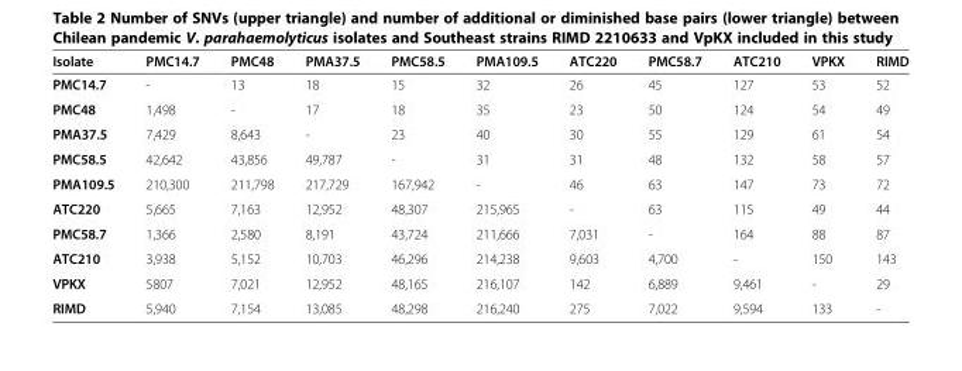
<table><thead><tr><td>Isolate</td><td>PMC14.7</td><td>PMC48</td><td>PMA37.5</td><td>PMC58.5</td><td>PMA109.5</td><td>ATC220</td><td>PMC58.7</td><td>ATC210</td><td>VPKX</td><td>RIMD</td></tr></thead><tbody><tr><td>PMC14.7</td><td>-</td><td>13</td><td>18</td><td>15</td><td>32</td><td>26</td><td>45</td><td>127</td><td>53</td><td>52</td></tr><tr><td>PMC48</td><td>1,498</td><td>-</td><td>17</td><td>18</td><td>35</td><td>23</td><td>50</td><td>124</td><td>54</td><td>49</td></tr><tr><td>PMA37.5</td><td>7,429</td><td>8,643</td><td>-</td><td>23</td><td>40</td><td>30</td><td>55</td><td>129</td><td>61</td><td>54</td></tr><tr><td>PMC58.5</td><td>42,642</td><td>43,856</td><td>49,787</td><td>-</td><td>31</td><td>31</td><td>48</td><td>132</td><td>58</td><td>57</td></tr><tr><td>PMA109.5</td><td>210,300</td><td>211,798</td><td>217,729</td><td>167,942</td><td>-</td><td>46</td><td>63</td><td>147</td><td>73</td><td>72</td></tr><tr><td>ATC220</td><td>5,665</td><td>7,163</td><td>12,952</td><td>48,307</td><td>215,965</td><td>-</td><td>63</td><td>115</td><td>49</td><td>44</td></tr><tr><td>PMC58.7</td><td>1,366</td><td>2,580</td><td>8,191</td><td>43,724</td><td>211,666</td><td>7,031</td><td>-</td><td>164</td><td>88</td><td>87</td></tr><tr><td>ATC210</td><td>3,938</td><td>5,152</td><td>10,703</td><td>46,296</td><td>214,238</td><td>9,603</td><td>4,700</td><td>-</td><td>150</td><td>143</td></tr><tr><td>VPKX</td><td>5807</td><td>7,021</td><td>12,952</td><td>48,165</td><td>216,107</td><td>142</td><td>6,889</td><td>9,461</td><td>-</td><td>29</td></tr><tr><td>RIMD</td><td>5,940</td><td>7,154</td><td>13,085</td><td>48,298</td><td>216,240</td><td>275</td><td>7,022</td><td>9,594</td><td>133</td><td>-</td></tr></tbody></table>